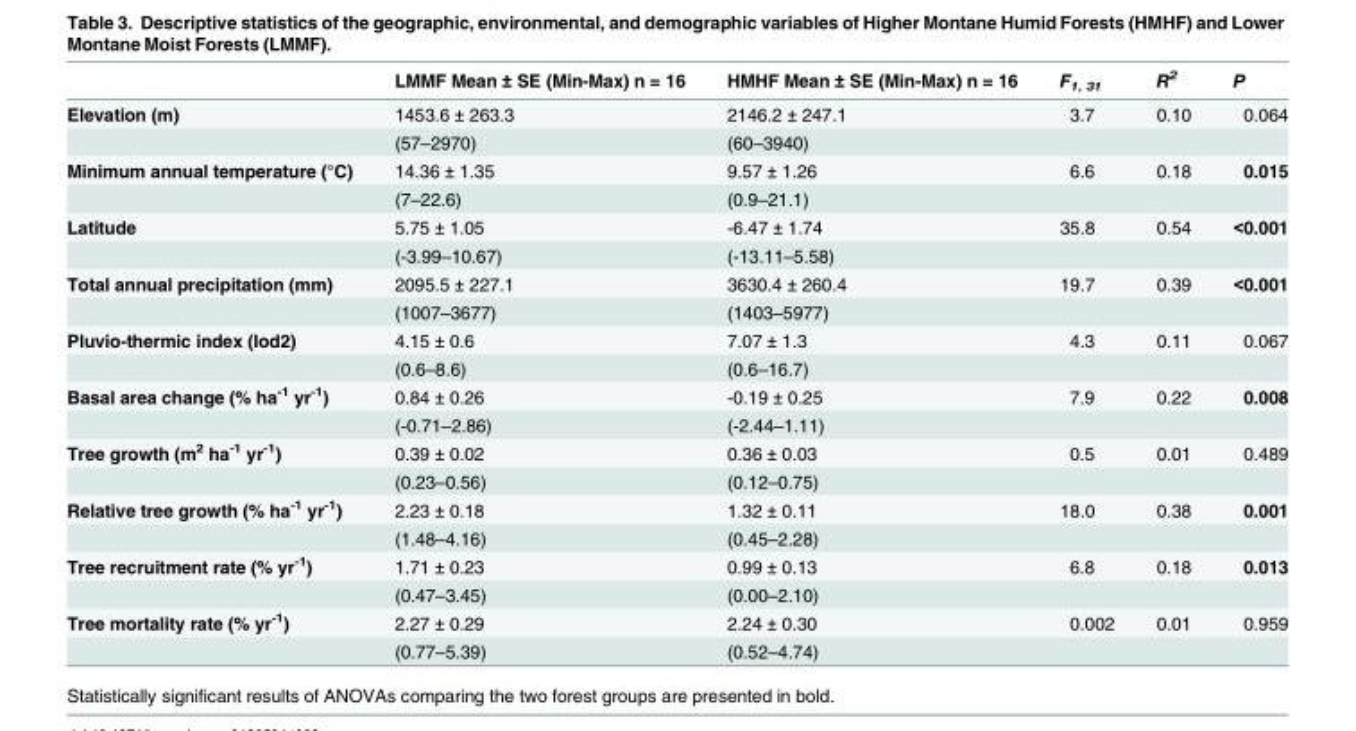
<table><thead><tr><td></td><td>LMMF Mean ± SE (Min-Max) n = 16</td><td>HMHF Mean ± SE (Min-Max) n = 16</td><td>F<sub>1, 31</sub></td><td>R<sup>2</sup></td><td>P</td></tr></thead><tbody><tr><td rowspan="2">Elevation (m)</td><td>1453.6 ± 263.3</td><td>2146.2 ± 247.1</td><td>3.7</td><td>0.10</td><td>0.064</td></tr><tr><td>(57–2970)</td><td>(60–3940)</td><td></td><td></td><td></td></tr><tr><td rowspan="2">Minimum annual temperature (°C)</td><td>14.36 ± 1.35</td><td>9.57 ± 1.26</td><td>6.6</td><td>0.18</td><td>0.015</td></tr><tr><td>(7–22.6)</td><td>(0.9–21.1)</td><td></td><td></td><td></td></tr><tr><td rowspan="2">Latitude</td><td>5.75 ± 1.05</td><td>-6.47 ± 1.74</td><td>35.8</td><td>0.54</td><td>&lt;0.001</td></tr><tr><td>(-3.99–10.67)</td><td>(-13.11–5.58)</td><td></td><td></td><td></td></tr><tr><td rowspan="2">Total annual precipitation (mm)</td><td>2095.5 ± 227.1</td><td>3630.4 ± 260.4</td><td>19.7</td><td>0.39</td><td>&lt;0.001</td></tr><tr><td>(1007–3677)</td><td>(1403–5977)</td><td></td><td></td><td></td></tr><tr><td rowspan="2">Pluvio-thermic index (Iod2)</td><td>4.15 ± 0.6</td><td>7.07 ± 1.3</td><td>4.3</td><td>0.11</td><td>0.067</td></tr><tr><td>(0.6–8.6)</td><td>(0.6–16.7)</td><td></td><td></td><td></td></tr><tr><td rowspan="2">Basal area change (% ha<sup>-1</sup> yr<sup>-1</sup>)</td><td>0.84 ± 0.26</td><td>-0.19 ± 0.25</td><td>7.9</td><td>0.22</td><td>0.008</td></tr><tr><td>(-0.71–2.86)</td><td>(-2.44–1.11)</td><td></td><td></td><td></td></tr><tr><td rowspan="2">Tree growth (m<sup>2</sup> ha<sup>-1</sup> yr<sup>-1</sup>)</td><td>0.39 ± 0.02</td><td>0.36 ± 0.03</td><td>0.5</td><td>0.01</td><td>0.489</td></tr><tr><td>(0.23–0.56)</td><td>(0.12–0.75)</td><td></td><td></td><td></td></tr><tr><td rowspan="2">Relative tree growth (% ha<sup>-1</sup> yr<sup>-1</sup>)</td><td>2.23 ± 0.18</td><td>1.32 ± 0.11</td><td>18.0</td><td>0.38</td><td>0.001</td></tr><tr><td>(1.48–4.16)</td><td>(0.45–2.28)</td><td></td><td></td><td></td></tr><tr><td rowspan="2">Tree recruitment rate (% yr<sup>-1</sup>)</td><td>1.71 ± 0.23</td><td>0.99 ± 0.13</td><td>6.8</td><td>0.18</td><td>0.013</td></tr><tr><td>(0.47–3.45)</td><td>(0.00–2.10)</td><td></td><td></td><td></td></tr><tr><td rowspan="2">Tree mortality rate (% yr<sup>-1</sup>)</td><td>2.27 ± 0.29</td><td>2.24 ± 0.30</td><td>0.002</td><td>0.01</td><td>0.959</td></tr><tr><td>(0.77–5.39)</td><td>(0.52–4.74)</td><td></td><td></td><td></td></tr></tbody></table>